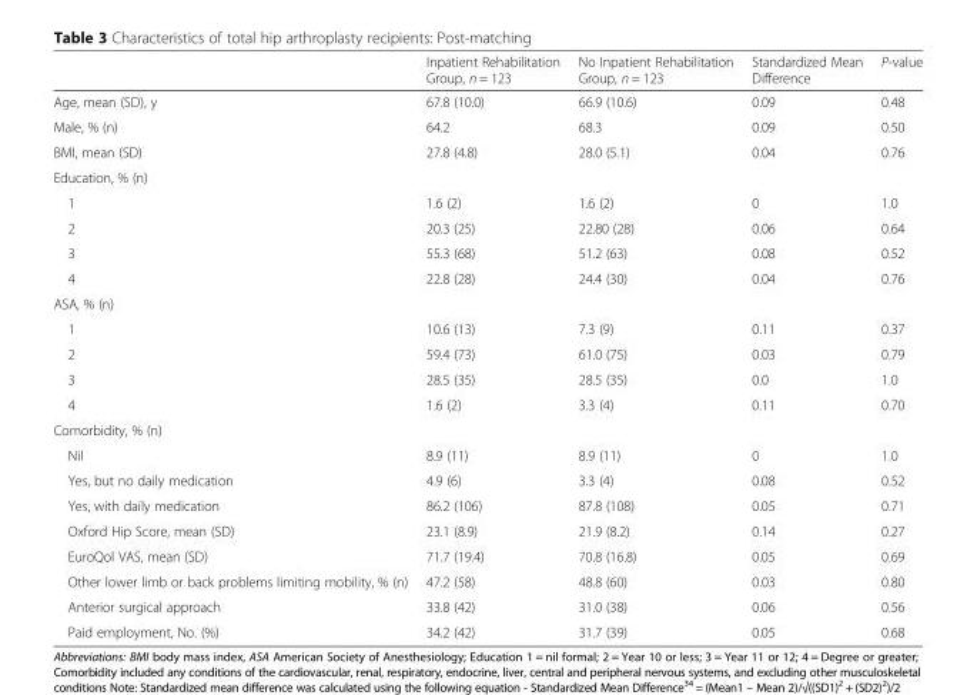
<table><thead><tr><td></td><td>Inpatient Rehabilitation Group, n = 123</td><td>No Inpatient Rehabilitation Group, n = 123</td><td>Standardized Mean Difference</td><td>P-value</td></tr></thead><tbody><tr><td>Age, mean (SD), y</td><td>67.8 (10.0)</td><td>66.9 (10.6)</td><td>0.09</td><td>0.48</td></tr><tr><td>Male, % (n)</td><td>64.2</td><td>68.3</td><td>0.09</td><td>0.50</td></tr><tr><td>BMI, mean (SD)</td><td>27.8 (4.8)</td><td>28.0 (5.1)</td><td>0.04</td><td>0.76</td></tr><tr><td colspan="5">Education, % (n)</td></tr><tr><td>1</td><td>1.6 (2)</td><td>1.6 (2)</td><td>0</td><td>1.0</td></tr><tr><td>2</td><td>20.3 (25)</td><td>22.80 (28)</td><td>0.06</td><td>0.64</td></tr><tr><td>3</td><td>55.3 (68)</td><td>51.2 (63)</td><td>0.08</td><td>0.52</td></tr><tr><td>4</td><td>22.8 (28)</td><td>24.4 (30)</td><td>0.04</td><td>0.76</td></tr><tr><td colspan="5">ASA, % (n)</td></tr><tr><td>1</td><td>10.6 (13)</td><td>7.3 (9)</td><td>0.11</td><td>0.37</td></tr><tr><td>2</td><td>59.4 (73)</td><td>61.0 (75)</td><td>0.03</td><td>0.79</td></tr><tr><td>3</td><td>28.5 (35)</td><td>28.5 (35)</td><td>0.0</td><td>1.0</td></tr><tr><td>4</td><td>1.6 (2)</td><td>3.3 (4)</td><td>0.11</td><td>0.70</td></tr><tr><td colspan="5">Comorbidity, % (n)</td></tr><tr><td>Nil</td><td>8.9 (11)</td><td>8.9 (11)</td><td>0</td><td>1.0</td></tr><tr><td>Yes, but no daily medication</td><td>4.9 (6)</td><td>3.3 (4)</td><td>0.08</td><td>0.52</td></tr><tr><td>Yes, with daily medication</td><td>86.2 (106)</td><td>87.8 (108)</td><td>0.05</td><td>0.71</td></tr><tr><td>Oxford Hip Score, mean (SD)</td><td>23.1 (8.9)</td><td>21.9 (8.2)</td><td>0.14</td><td>0.27</td></tr><tr><td>EuroQol VAS, mean (SD)</td><td>71.7 (19.4)</td><td>70.8 (16.8)</td><td>0.05</td><td>0.69</td></tr><tr><td>Other lower limb or back problems limiting mobility, % (n)</td><td>47.2 (58)</td><td>48.8 (60)</td><td>0.03</td><td>0.80</td></tr><tr><td>Anterior surgical approach</td><td>33.8 (42)</td><td>31.0 (38)</td><td>0.06</td><td>0.56</td></tr><tr><td>Paid employment, No. (%)</td><td>34.2 (42)</td><td>31.7 (39)</td><td>0.05</td><td>0.68</td></tr></tbody></table>